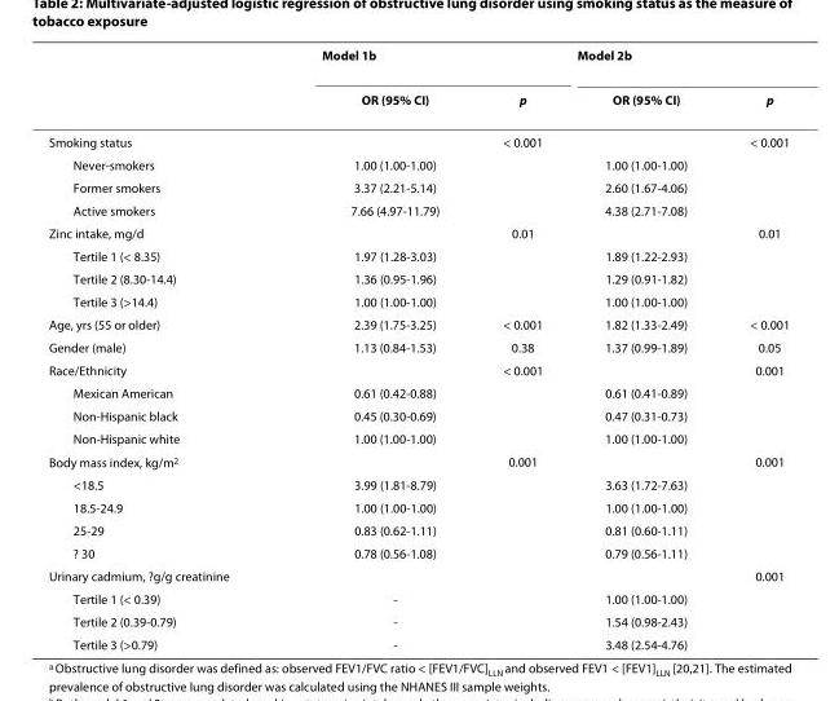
<table><thead><tr><td rowspan="2"></td><td colspan="2">Model 1<sup>b</sup></td><td colspan="2">Model 2<sup>b</sup></td></tr><tr><td>OR (95% CI)</td><td>p</td><td>OR (95% CI)</td><td>p</td></tr></thead><tbody><tr><td>Smoking status</td><td></td><td>&lt; 0.001</td><td></td><td>&lt; 0.001</td></tr><tr><td>Never-smokers</td><td>1.00 (1.00-1.00)</td><td></td><td>1.00 (1.00-1.00)</td><td></td></tr><tr><td>Former smokers</td><td>3.37 (2.21-5.14)</td><td></td><td>2.60 (1.67-4.06)</td><td></td></tr><tr><td>Active smokers</td><td>7.66 (4.97-11.79)</td><td></td><td>4.38 (2.71-7.08)</td><td></td></tr><tr><td>Zinc intake, mg/d</td><td></td><td>0.01</td><td></td><td>0.01</td></tr><tr><td>Tertile 1 (&lt; 8.35)</td><td>1.97 (1.28-3.03)</td><td></td><td>1.89 (1.22-2.93)</td><td></td></tr><tr><td>Tertile 2 (8.30-14.4)</td><td>1.36 (0.95-1.96)</td><td></td><td>1.29 (0.91-1.82)</td><td></td></tr><tr><td>Tertile 3 (&gt;14.4)</td><td>1.00 (1.00-1.00)</td><td></td><td>1.00 (1.00-1.00)</td><td></td></tr><tr><td>Age, yrs (55 or older)</td><td>2.39 (1.75-3.25)</td><td>&lt; 0.001</td><td>1.82 (1.33-2.49)</td><td>&lt; 0.001</td></tr><tr><td>Gender (male)</td><td>1.13 (0.84-1.53)</td><td>0.38</td><td>1.37 (0.99-1.89)</td><td>0.05</td></tr><tr><td>Race/Ethnicity</td><td></td><td>&lt; 0.001</td><td></td><td>0.001</td></tr><tr><td>Mexican American</td><td>0.61 (0.42-0.88)</td><td></td><td>0.61 (0.41-0.89)</td><td></td></tr><tr><td>Non-Hispanic black</td><td>0.45 (0.30-0.69)</td><td></td><td>0.47 (0.31-0.73)</td><td></td></tr><tr><td>Non-Hispanic white</td><td>1.00 (1.00-1.00)</td><td></td><td>1.00 (1.00-1.00)</td><td></td></tr><tr><td>Body mass index, kg/m<sup>2</sup></td><td></td><td>0.001</td><td></td><td>0.001</td></tr><tr><td>&lt;18.5</td><td>3.99 (1.81-8.79)</td><td></td><td>3.63 (1.72-7.63)</td><td></td></tr><tr><td>18.5-24.9</td><td>1.00 (1.00-1.00)</td><td></td><td>1.00 (1.00-1.00)</td><td></td></tr><tr><td>25-29</td><td>0.83 (0.62-1.11)</td><td></td><td>0.81 (0.60-1.11)</td><td></td></tr><tr><td>≥ 30</td><td>0.78 (0.56-1.08)</td><td></td><td>0.79 (0.56-1.11)</td><td></td></tr><tr><td>Urinary cadmium, ?g/g creatinine</td><td></td><td></td><td></td><td>0.001</td></tr><tr><td>Tertile 1 (&lt; 0.39)</td><td>-</td><td></td><td>1.00 (1.00-1.00)</td><td></td></tr><tr><td>Tertile 2 (0.39-0.79)</td><td>-</td><td></td><td>1.54 (0.98-2.43)</td><td></td></tr><tr><td>Tertile 3 (&gt;0.79)</td><td>-</td><td></td><td>3.48 (2.54-4.76)</td><td></td></tr></tbody></table>